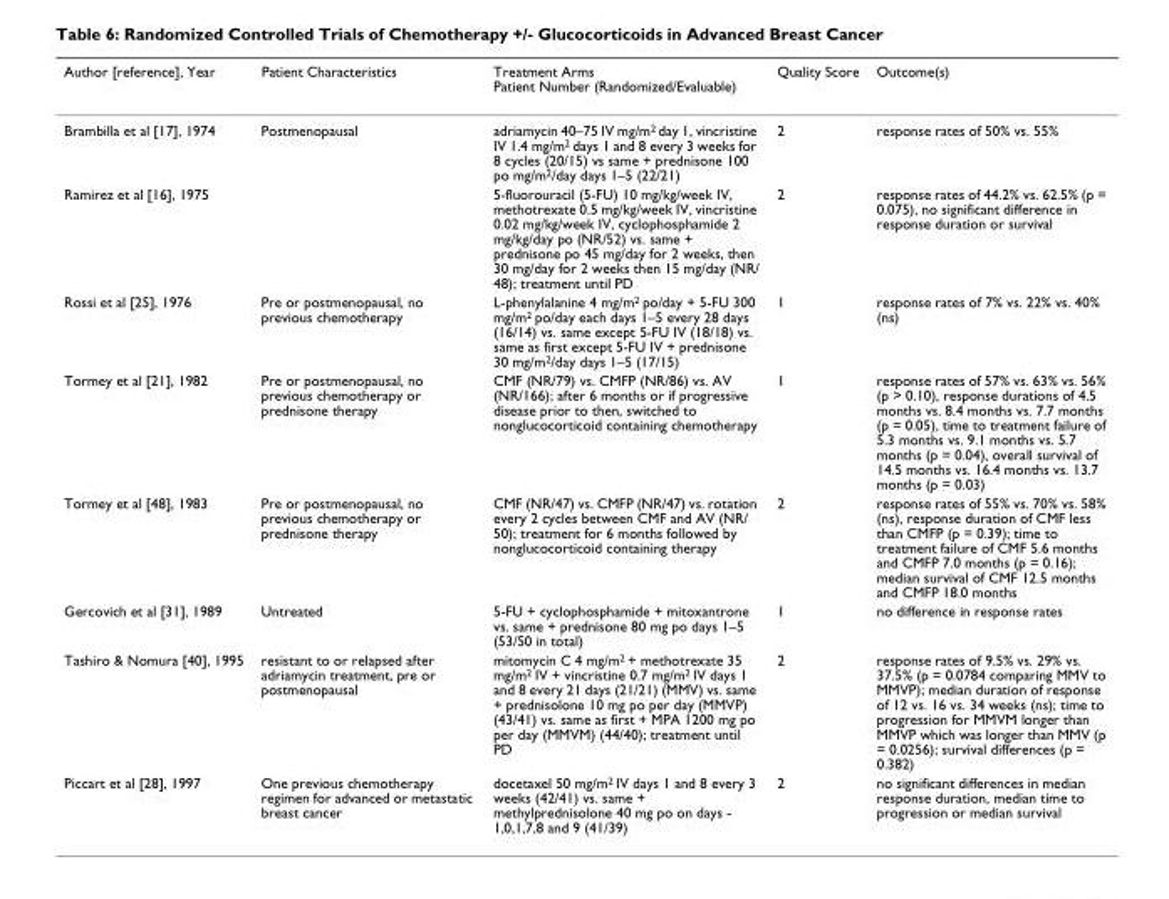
<table><thead><tr><td>Author [reference], Year</td><td>Patient Characteristics</td><td>Treatment Arms Patient Number (Randomized/Evaluable)</td><td>Quality Score</td><td>Outcome(s)</td></tr></thead><tbody><tr><td>Brambilla et al [17], 1974</td><td>Postmenopausal</td><td>adriamycin 40–75 IV mg/m<sup>2</sup> day 1, vincristine IV 1.4 mg/m<sup>2</sup> days 1 and 8 every 3 weeks for 8 cycles (20/15) vs same + prednisone 100 po mg/m<sup>2</sup>/day days 1–5 (22/21)</td><td>2</td><td>response rates of 50% vs. 55%</td></tr><tr><td>Ramirez et al [16], 1975</td><td></td><td>5-fluorouracil (5-FU) 10 mg/kg/week IV, methotrexate 0.5 mg/kg/week IV, vincristine 0.02 mg/kg/week IV, cyclophosphamide 2 mg/kg/day po (NR/52) vs. same + prednisone po 45 mg/day for 2 weeks, then 30 mg/day for 2 weeks then 15 mg/day (NR/ 48); treatment until PD</td><td>2</td><td>response rates of 44.2% vs. 62.5% (p = 0.075), no significant difference in response duration or survival</td></tr><tr><td>Rossi et al [25], 1976</td><td>Pre or postmenopausal, no previous chemotherapy</td><td>L-phenylalanine 4 mg/m<sup>2</sup> po/day + 5-FU 300 mg/m<sup>2</sup> po/day each days 1–5 every 28 days (16/14) vs. same except 5-FU IV (18/18) vs. same as first except 5-FU IV + prednisone 30 mg/m<sup>2</sup>/day days 1–5 (17/15)</td><td>1</td><td>response rates of 7% vs. 22% vs. 40% (ns)</td></tr><tr><td>Tormey et al [21], 1982</td><td>Pre or postmenopausal, no previous chemotherapy or prednisone therapy</td><td>CMF (NR/79) vs. CMFP (NR/86) vs. AV (NR/166); after 6 months or if progressive disease prior to then, switched to nonglucocorticoid containing chemotherapy</td><td>1</td><td>response rates of 57% vs. 63% vs. 56% (p &gt; 0.10), response durations of 4.5 months vs. 8.4 months vs. 7.7 months (p = 0.05), time to treatment failure of 5.3 months vs. 9.1 months vs. 5.7 months (p = 0.04), overall survival of 14.5 months vs. 16.4 months vs. 13.7 months (p = 0.03)</td></tr><tr><td>Tormey et al [48], 1983</td><td>Pre or postmenopausal, no previous chemotherapy or prednisone therapy</td><td>CMF (NR/47) vs. CMFP (NR/47) vs. rotation every 2 cycles between CMF and AV (NR/ 50); treatment for 6 months followed by nonglucocorticoid containing therapy</td><td>2</td><td>response rates of 55% vs. 70% vs. 58% (ns), response duration of CMF less than CMFP (p = 0.39); time to treatment failure of CMF 5.6 months and CMFP 7.0 months (p = 0.16); median survival of CMF 12.5 months and CMFP 18.0 months</td></tr><tr><td>Gercovich et al [31], 1989</td><td>Untreated</td><td>5-FU + cyclophosphamide + mitoxantrone vs. same + prednisone 80 mg po days 1–5 (53/50 in total)</td><td>1</td><td>no difference in response rates</td></tr><tr><td>Tashiro &amp; Nomura [40], 1995</td><td>resistant to or relapsed after adriamycin treatment, pre or postmenopausal</td><td>mitomycin C 4 mg/m<sup>2</sup> + methotrexate 35 mg/m<sup>2</sup> IV + vincristine 0.7 mg/m<sup>2</sup> IV days 1 and 8 every 21 days (21/21) (MMV) vs. same + prednisolone 10 mg po per day (MMVP) (43/41) vs. same as first + MPA 1200 mg po per day (MMVM) (44/40); treatment until PD</td><td>2</td><td>response rates of 9.5% vs. 29% vs. 37.5% (p = 0.0784 comparing MMV to MMVP); median duration of response of 12 vs. 16 vs. 34 weeks (ns); time to progression for MMVM longer than MMVP which was longer than MMV (p = 0.0256); survival differences (p = 0.382)</td></tr><tr><td>Piccart et al [28], 1997</td><td>One previous chemotherapy regimen for advanced or metastatic breast cancer</td><td>docetaxel 50 mg/m<sup>2</sup> IV days 1 and 8 every 3 weeks (42/41) vs. same + methylprednisolone 40 mg po on days - 1,0,1,7,8 and 9 (41/39)</td><td>2</td><td>no significant differences in median response duration, median time to progression or median survival</td></tr></tbody></table>